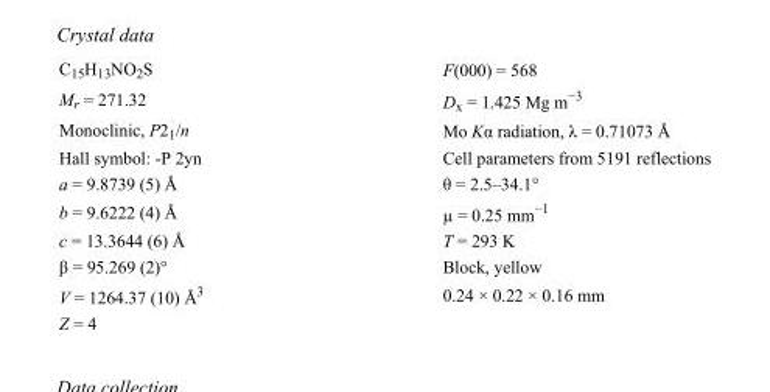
<table><tbody><tr><td>C<sub>15</sub>H<sub>13</sub>NO<sub>2</sub>S</td><td>F(000) = 568</td></tr><tr><td>M<sub>r</sub> = 271.32</td><td>D<sub>x</sub> = 1.425 Mg m<sup>−3</sup></td></tr><tr><td>Monoclinic, P2<sub>1</sub>/n</td><td>Mo Kα radiation, λ = 0.71073 Å</td></tr><tr><td>Hall symbol: -P 2yn</td><td>Cell parameters from 5191 reflections</td></tr><tr><td>a = 9.8739 (5) Å</td><td>θ = 2.5–34.1°</td></tr><tr><td>b = 9.6222 (4) Å</td><td>µ = 0.25 mm<sup>−1</sup></td></tr><tr><td>c = 13.3644 (6) Å</td><td>T = 293 K</td></tr><tr><td>β = 95.269 (2)°</td><td>Block, yellow</td></tr><tr><td>V = 1264.37 (10) Å<sup>3</sup></td><td>0.24 × 0.22 × 0.16 mm</td></tr><tr><td>Z = 4</td><td></td></tr></tbody></table>